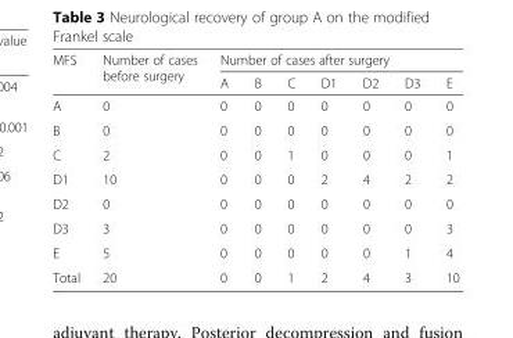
<table><thead><tr><td rowspan="2">MFS</td><td rowspan="2">Number of cases before surgery</td><td colspan="7">Number of cases after surgery</td></tr><tr><td>A</td><td>B</td><td>C</td><td>D1</td><td>D2</td><td>D3</td><td>E</td></tr></thead><tbody><tr><td>A</td><td>0</td><td>0</td><td>0</td><td>0</td><td>0</td><td>0</td><td>0</td><td>0</td></tr><tr><td>B</td><td>0</td><td>0</td><td>0</td><td>0</td><td>0</td><td>0</td><td>0</td><td>0</td></tr><tr><td>C</td><td>2</td><td>0</td><td>0</td><td>1</td><td>0</td><td>0</td><td>0</td><td>1</td></tr><tr><td>D1</td><td>10</td><td>0</td><td>0</td><td>0</td><td>2</td><td>4</td><td>2</td><td>2</td></tr><tr><td>D2</td><td>0</td><td>0</td><td>0</td><td>0</td><td>0</td><td>0</td><td>0</td><td>0</td></tr><tr><td>D3</td><td>3</td><td>0</td><td>0</td><td>0</td><td>0</td><td>0</td><td>0</td><td>3</td></tr><tr><td>E</td><td>5</td><td>0</td><td>0</td><td>0</td><td>0</td><td>0</td><td>1</td><td>4</td></tr><tr><td>Total</td><td>20</td><td>0</td><td>0</td><td>1</td><td>2</td><td>4</td><td>3</td><td>10</td></tr></tbody></table>